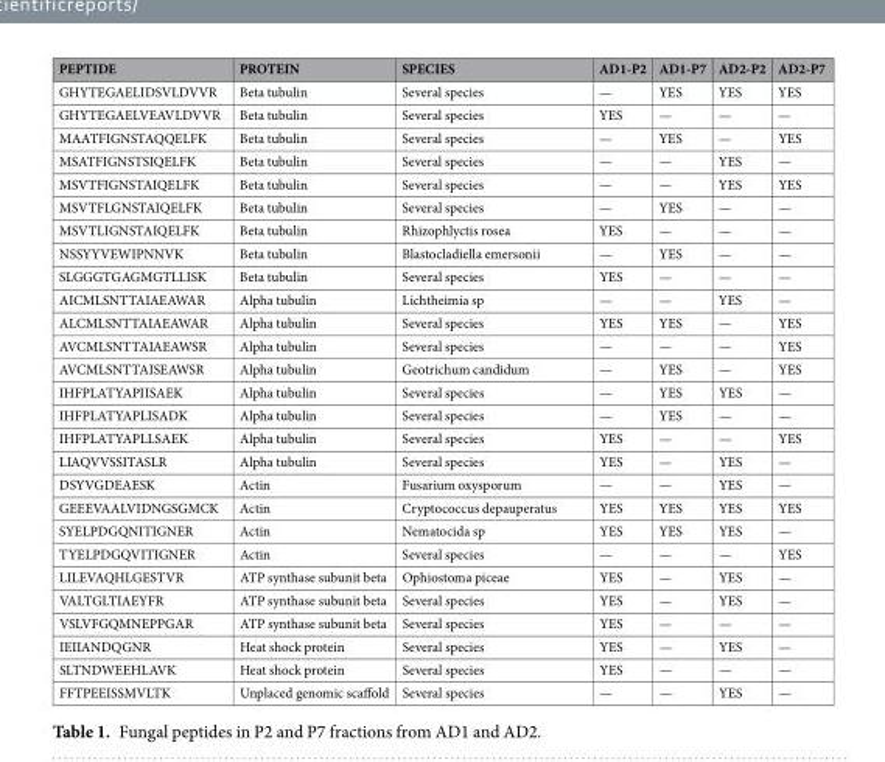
<table><thead><tr><td>PEPTIDE</td><td>PROTEIN</td><td>SPECIES</td><td>AD1-P2</td><td>AD1-P7</td><td>AD2-P2</td><td>AD2-P7</td></tr></thead><tbody><tr><td>GHYTEGAELIDSVLDVVR</td><td>Beta tubulin</td><td>Several species</td><td>—</td><td>YES</td><td>YES</td><td>YES</td></tr><tr><td>GHYTEGAELVEAVLDVVR</td><td>Beta tubulin</td><td>Several species</td><td>YES</td><td>—</td><td>—</td><td>—</td></tr><tr><td>MAATFIGNSTAQQELFK</td><td>Beta tubulin</td><td>Several species</td><td>—</td><td>YES</td><td>—</td><td>YES</td></tr><tr><td>MSATFIGNSTSIQELFK</td><td>Beta tubulin</td><td>Several species</td><td>—</td><td>—</td><td>YES</td><td>—</td></tr><tr><td>MSVTFIGNSTAIQELFK</td><td>Beta tubulin</td><td>Several species</td><td>—</td><td>—</td><td>YES</td><td>YES</td></tr><tr><td>MSVTFLGNSTAIQELFK</td><td>Beta tubulin</td><td>Several species</td><td>—</td><td>YES</td><td>—</td><td>—</td></tr><tr><td>MSVTLIGNSTAIQELFK</td><td>Beta tubulin</td><td>Rhizophlyctis rosea</td><td>YES</td><td>—</td><td>—</td><td>—</td></tr><tr><td>NSSYYVEWIPNNVK</td><td>Beta tubulin</td><td>Blastocladiella emersonii</td><td>—</td><td>YES</td><td>—</td><td>—</td></tr><tr><td>SLGGGTGAGMGTLLISK</td><td>Beta tubulin</td><td>Several species</td><td>YES</td><td>—</td><td>—</td><td>—</td></tr><tr><td>AICMLSNTTAIAEAWAR</td><td>Alpha tubulin</td><td>Lichtheimia sp</td><td>—</td><td>—</td><td>YES</td><td>—</td></tr><tr><td>ALCMLSNTTAIAEAWAR</td><td>Alpha tubulin</td><td>Several species</td><td>YES</td><td>YES</td><td>—</td><td>YES</td></tr><tr><td>AVCMLSNTTAIAEAWSR</td><td>Alpha tubulin</td><td>Several species</td><td>—</td><td>—</td><td>—</td><td>YES</td></tr><tr><td>AVCMLSNTTAISEAWSR</td><td>Alpha tubulin</td><td>Geotrichum candidum</td><td>—</td><td>YES</td><td>—</td><td>YES</td></tr><tr><td>IHFPLATYAPIISAEK</td><td>Alpha tubulin</td><td>Several species</td><td>—</td><td>YES</td><td>YES</td><td>—</td></tr><tr><td>IHFPLATYAPLISADK</td><td>Alpha tubulin</td><td>Several species</td><td>—</td><td>YES</td><td>—</td><td>—</td></tr><tr><td>IHFPLATYAPLLSAEK</td><td>Alpha tubulin</td><td>Several species</td><td>YES</td><td>—</td><td>—</td><td>YES</td></tr><tr><td>LIAQVVSSITASLR</td><td>Alpha tubulin</td><td>Several species</td><td>YES</td><td>—</td><td>YES</td><td>—</td></tr><tr><td>DSYVGDEAESK</td><td>Actin</td><td>Fusarium oxysporum</td><td>—</td><td>—</td><td>YES</td><td>—</td></tr><tr><td>GEEEVAALVIDNGSGMCK</td><td>Actin</td><td>Cryptococcus depauperatus</td><td>YES</td><td>YES</td><td>YES</td><td>YES</td></tr><tr><td>SYELPDGQNITIGNER</td><td>Actin</td><td>Nematocida sp</td><td>YES</td><td>YES</td><td>YES</td><td>—</td></tr><tr><td>TYELPDGQVITIGNER</td><td>Actin</td><td>Several species</td><td>—</td><td>—</td><td>—</td><td>YES</td></tr><tr><td>LILEVAQHLGESTVR</td><td>ATP synthase subunit beta</td><td>Ophiostoma piceae</td><td>YES</td><td>—</td><td>YES</td><td>—</td></tr><tr><td>VALTGLTIAEYFR</td><td>ATP synthase subunit beta</td><td>Several species</td><td>YES</td><td>—</td><td>YES</td><td>—</td></tr><tr><td>VSLVFGQMNEPPGAR</td><td>ATP synthase subunit beta</td><td>Several species</td><td>YES</td><td>—</td><td>—</td><td>—</td></tr><tr><td>IEIIANDQGNR</td><td>Heat shock protein</td><td>Several species</td><td>YES</td><td>—</td><td>YES</td><td>—</td></tr><tr><td>SLTNDWEEHLAVK</td><td>Heat shock protein</td><td>Several species</td><td>YES</td><td>—</td><td>—</td><td>—</td></tr><tr><td>FFTPEEISSMVLTK</td><td>Unplaced genomic scaffold</td><td>Several species</td><td>—</td><td>—</td><td>YES</td><td>—</td></tr></tbody></table>